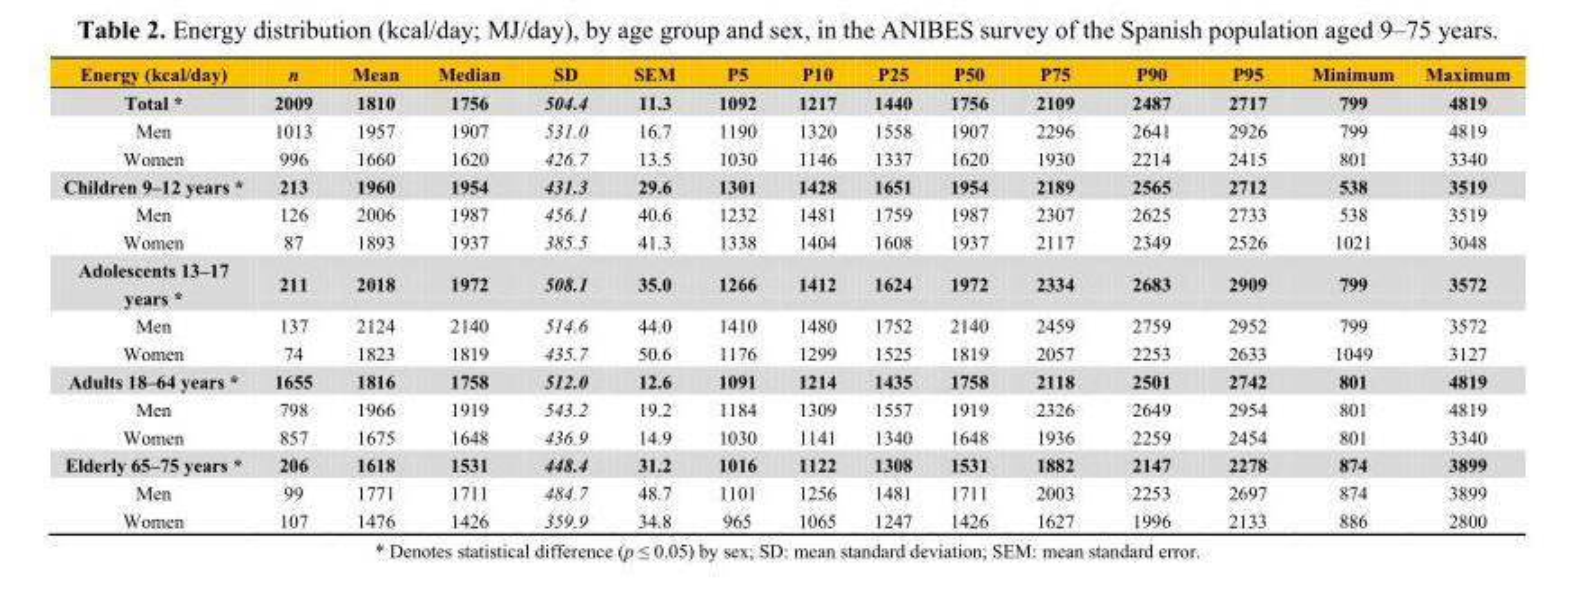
<table><thead><tr><td>Energy (kcal/day)</td><td>n</td><td>Mean</td><td>Median</td><td>SD</td><td>SEM</td><td>P5</td><td>P10</td><td>P25</td><td>P50</td><td>P75</td><td>P90</td><td>P95</td><td>Minimum</td><td>Maximum</td></tr></thead><tbody><tr><td>Total *</td><td>2009</td><td>1810</td><td>1756</td><td>504.4</td><td>11.3</td><td>1092</td><td>1217</td><td>1440</td><td>1756</td><td>2109</td><td>2487</td><td>2717</td><td>799</td><td>4819</td></tr><tr><td>Men</td><td>1013</td><td>1957</td><td>1907</td><td>531.0</td><td>16.7</td><td>1190</td><td>1320</td><td>1558</td><td>1907</td><td>2296</td><td>2641</td><td>2926</td><td>799</td><td>4819</td></tr><tr><td>Women</td><td>996</td><td>1660</td><td>1620</td><td>426.7</td><td>13.5</td><td>1030</td><td>1146</td><td>1337</td><td>1620</td><td>1930</td><td>2214</td><td>2415</td><td>801</td><td>3340</td></tr><tr><td>Children 9–12 years *</td><td>213</td><td>1960</td><td>1954</td><td>431.3</td><td>29.6</td><td>1301</td><td>1428</td><td>1651</td><td>1954</td><td>2189</td><td>2565</td><td>2712</td><td>538</td><td>3519</td></tr><tr><td>Men</td><td>126</td><td>2006</td><td>1987</td><td>456.1</td><td>40.6</td><td>1232</td><td>1481</td><td>1759</td><td>1987</td><td>2307</td><td>2625</td><td>2733</td><td>538</td><td>3519</td></tr><tr><td>Women</td><td>87</td><td>1893</td><td>1937</td><td>385.5</td><td>41.3</td><td>1338</td><td>1404</td><td>1608</td><td>1937</td><td>2117</td><td>2349</td><td>2526</td><td>1021</td><td>3048</td></tr><tr><td>Adolescents 13–17 years *</td><td>211</td><td>2018</td><td>1972</td><td>508.1</td><td>35.0</td><td>1266</td><td>1412</td><td>1624</td><td>1972</td><td>2334</td><td>2683</td><td>2909</td><td>799</td><td>3572</td></tr><tr><td>Men</td><td>137</td><td>2124</td><td>2140</td><td>514.6</td><td>44.0</td><td>1410</td><td>1480</td><td>1752</td><td>2140</td><td>2459</td><td>2759</td><td>2952</td><td>799</td><td>3572</td></tr><tr><td>Women</td><td>74</td><td>1823</td><td>1819</td><td>435.7</td><td>50.6</td><td>1176</td><td>1299</td><td>1525</td><td>1819</td><td>2057</td><td>2253</td><td>2633</td><td>1049</td><td>3127</td></tr><tr><td>Adults 18–64 years *</td><td>1655</td><td>1816</td><td>1758</td><td>512.0</td><td>12.6</td><td>1091</td><td>1214</td><td>1435</td><td>1758</td><td>2118</td><td>2501</td><td>2742</td><td>801</td><td>4819</td></tr><tr><td>Men</td><td>798</td><td>1966</td><td>1919</td><td>543.2</td><td>19.2</td><td>1184</td><td>1309</td><td>1557</td><td>1919</td><td>2326</td><td>2649</td><td>2954</td><td>801</td><td>4819</td></tr><tr><td>Women</td><td>857</td><td>1675</td><td>1648</td><td>436.9</td><td>14.9</td><td>1030</td><td>1141</td><td>1340</td><td>1648</td><td>1936</td><td>2259</td><td>2454</td><td>801</td><td>3340</td></tr><tr><td>Elderly 65–75 years *</td><td>206</td><td>1618</td><td>1531</td><td>448.4</td><td>31.2</td><td>1016</td><td>1122</td><td>1308</td><td>1531</td><td>1882</td><td>2147</td><td>2278</td><td>874</td><td>3899</td></tr><tr><td>Men</td><td>99</td><td>1771</td><td>1711</td><td>484.7</td><td>48.7</td><td>1101</td><td>1256</td><td>1481</td><td>1711</td><td>2003</td><td>2253</td><td>2697</td><td>874</td><td>3899</td></tr><tr><td>Women</td><td>107</td><td>1476</td><td>1426</td><td>359.9</td><td>34.8</td><td>965</td><td>1065</td><td>1247</td><td>1426</td><td>1627</td><td>1996</td><td>2133</td><td>886</td><td>2800</td></tr></tbody></table>